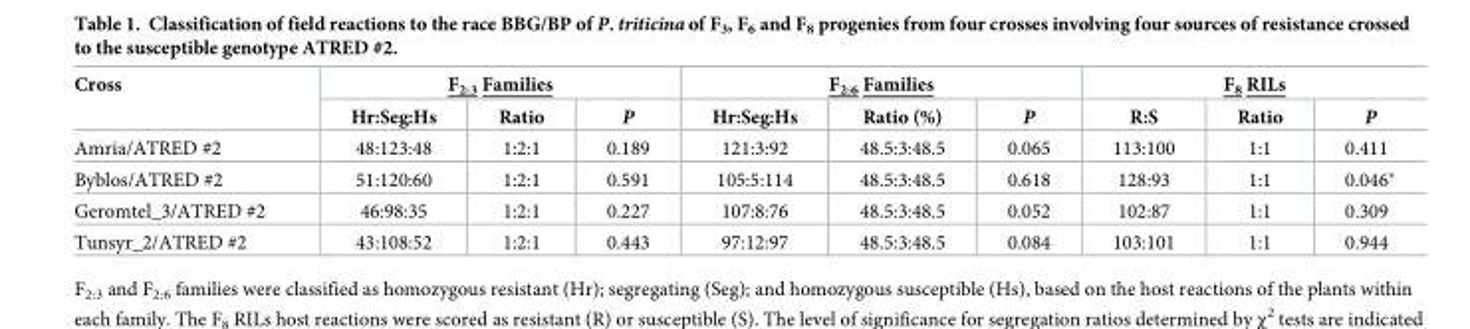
<table><thead><tr><td rowspan="2">Cross</td><td colspan="3">F<sub>2:3</sub> Families</td><td colspan="3">F<sub>2:6</sub> Families</td><td colspan="3">F<sub>8</sub> RILs</td></tr><tr><td>Hr:Seg:Hs</td><td>Ratio</td><td>P</td><td>Hr:Seg:Hs</td><td>Ratio (%)</td><td>P</td><td>R:S</td><td>Ratio</td><td>P</td></tr></thead><tbody><tr><td>Amria/ATRED #2</td><td>48:123:48</td><td>1:2:1</td><td>0.189</td><td>121:3:92</td><td>48.5:3:48.5</td><td>0.065</td><td>113:100</td><td>1:1</td><td>0.411</td></tr><tr><td>Byblos/ATRED #2</td><td>51:120:60</td><td>1:2:1</td><td>0.591</td><td>105:5:114</td><td>48.5:3:48.5</td><td>0.618</td><td>128:93</td><td>1:1</td><td>0.046*</td></tr><tr><td>Geromtel_3/ATRED #2</td><td>46:98:35</td><td>1:2:1</td><td>0.227</td><td>107:8:76</td><td>48.5:3:48.5</td><td>0.052</td><td>102:87</td><td>1:1</td><td>0.309</td></tr><tr><td>Tunsyr_2/ATRED #2</td><td>43:108:52</td><td>1:2:1</td><td>0.443</td><td>97:12:97</td><td>48.5:3:48.5</td><td>0.084</td><td>103:101</td><td>1:1</td><td>0.944</td></tr></tbody></table>